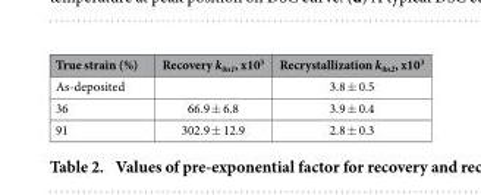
<table><thead><tr><td>True strain (%)</td><td>Recovery k<sub>0n1</sub>, x10<sup>3</sup></td><td>Recrystallization k<sub>0n2</sub>, x10<sup>3</sup></td></tr></thead><tbody><tr><td>As-deposited</td><td></td><td>3.8 ± 0.5</td></tr><tr><td>36</td><td>66.9 ± 6.8</td><td>3.9 ± 0.4</td></tr><tr><td>91</td><td>302.9 ± 12.9</td><td>2.8 ± 0.3</td></tr></tbody></table>